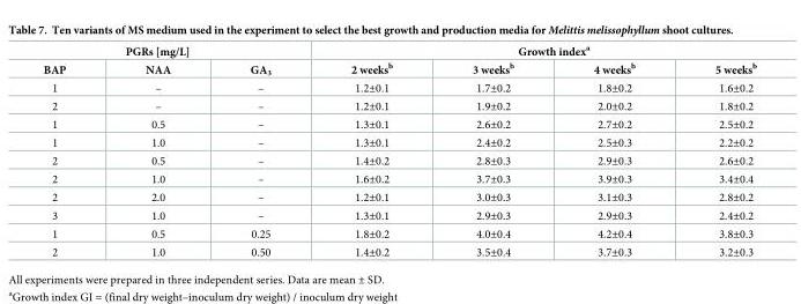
<table><thead><tr><td colspan="3">PGRs [mg/L]</td><td colspan="4">Growth index<sup>a</sup></td></tr><tr><td>BAP</td><td>NAA</td><td>GA<sub>3</sub></td><td>2 weeks<sup>b</sup></td><td>3 weeks<sup>b</sup></td><td>4 weeks<sup>b</sup></td><td>5 weeks<sup>b</sup></td></tr></thead><tbody><tr><td>1</td><td>–</td><td>–</td><td>1.2±0.1</td><td>1.7±0.2</td><td>1.8±0.2</td><td>1.6±0.2</td></tr><tr><td>2</td><td>–</td><td>–</td><td>1.2±0.1</td><td>1.9±0.2</td><td>2.0±0.2</td><td>1.8±0.2</td></tr><tr><td>1</td><td>0.5</td><td>–</td><td>1.3±0.1</td><td>2.6±0.2</td><td>2.7±0.2</td><td>2.5±0.2</td></tr><tr><td>1</td><td>1.0</td><td>–</td><td>1.3±0.1</td><td>2.4±0.2</td><td>2.5±0.3</td><td>2.2±0.2</td></tr><tr><td>2</td><td>0.5</td><td>–</td><td>1.4±0.2</td><td>2.8±0.3</td><td>2.9±0.3</td><td>2.6±0.2</td></tr><tr><td>2</td><td>1.0</td><td>–</td><td>1.6±0.2</td><td>3.7±0.3</td><td>3.9±0.3</td><td>3.4±0.4</td></tr><tr><td>2</td><td>2.0</td><td>–</td><td>1.2±0.1</td><td>3.0±0.3</td><td>3.1±0.3</td><td>2.8±0.2</td></tr><tr><td>3</td><td>1.0</td><td>–</td><td>1.3±0.1</td><td>2.9±0.3</td><td>2.9±0.3</td><td>2.4±0.2</td></tr><tr><td>1</td><td>0.5</td><td>0.25</td><td>1.8±0.2</td><td>4.0±0.4</td><td>4.2±0.4</td><td>3.8±0.3</td></tr><tr><td>2</td><td>1.0</td><td>0.50</td><td>1.4±0.2</td><td>3.5±0.4</td><td>3.7±0.3</td><td>3.2±0.3</td></tr></tbody></table>